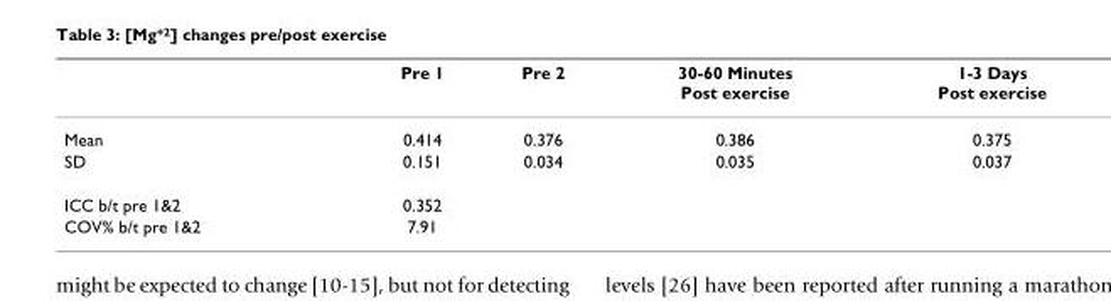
<table><thead><tr><td></td><td>Pre 1</td><td>Pre 2</td><td>30-60 Minutes Post exercise</td><td>1-3 Days Post exercise</td></tr></thead><tbody><tr><td>Mean</td><td>0.414</td><td>0.376</td><td>0.386</td><td>0.375</td></tr><tr><td>SD</td><td>0.151</td><td>0.034</td><td>0.035</td><td>0.037</td></tr><tr><td>ICC b/t pre 1&amp;2</td><td>0.352</td><td></td><td></td><td></td></tr><tr><td>COV% b/t pre 1&amp;2</td><td>7.91</td><td></td><td></td><td></td></tr></tbody></table>